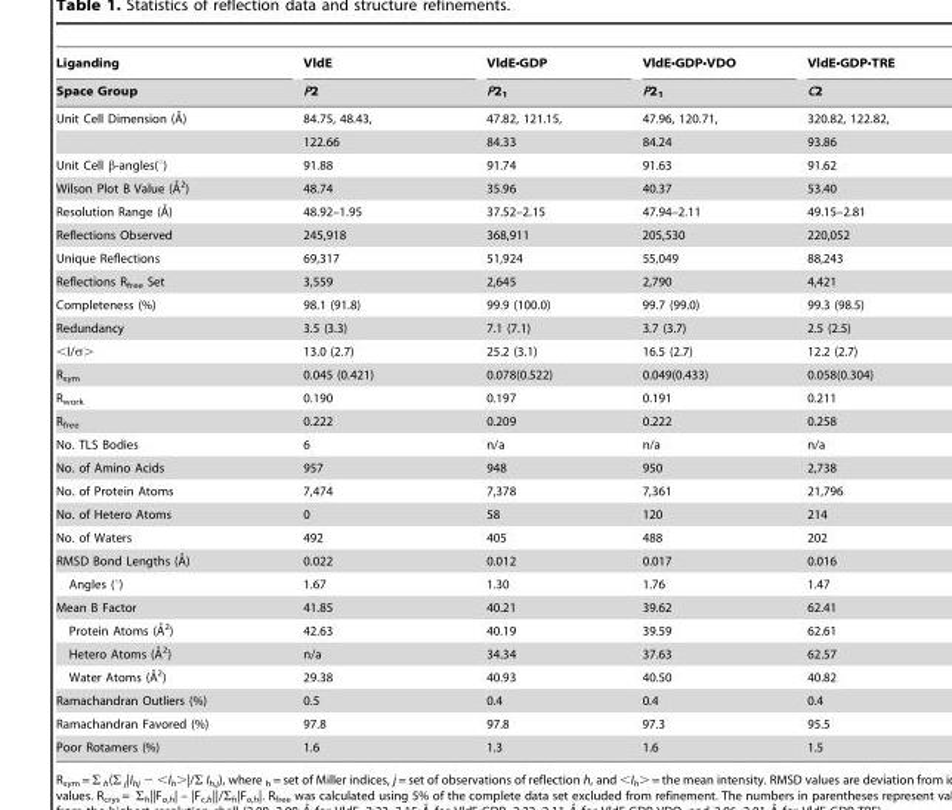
<table><thead><tr><td rowspan="2">Liganding Space Group</td><td rowspan="2">VldE P2</td><td rowspan="2">VldE•GDP P2<sub>1</sub></td><td rowspan="2">VldE•GDP•VDO P2<sub>1</sub></td><td rowspan="2">VldE•GDP•TRE C2</td></tr><tr></tr></thead><tbody><tr><td rowspan="2">Unit Cell Dimension (A˚)</td><td>84.75, 48.43,</td><td>47.82, 121.15,</td><td>47.96, 120.71,</td><td>320.82, 122.82,</td></tr><tr><td>122.66</td><td>84.33</td><td>84.24</td><td>93.86</td></tr><tr><td>Unit Cell β-angles(°)</td><td>91.88</td><td>91.74</td><td>91.63</td><td>91.62</td></tr><tr><td>Wilson Plot B Value (A˚2)</td><td>48.74</td><td>35.96</td><td>40.37</td><td>53.40</td></tr><tr><td>Resolution Range (A˚)</td><td>48.92–1.95</td><td>37.52–2.15</td><td>47.94–2.11</td><td>49.15–2.81</td></tr><tr><td>Reflections Observed</td><td>245,918</td><td>368,911</td><td>205,530</td><td>220,052</td></tr><tr><td>Unique Reflections</td><td>69,317</td><td>51,924</td><td>55,049</td><td>88,243</td></tr><tr><td>Reflections R<sub>free</sub> Set</td><td>3,559</td><td>2,645</td><td>2,790</td><td>4,421</td></tr><tr><td>Completeness (%)</td><td>98.1 (91.8)</td><td>99.9 (100.0)</td><td>99.7 (99.0)</td><td>99.3 (98.5)</td></tr><tr><td>Redundancy</td><td>3.5 (3.3)</td><td>7.1 (7.1)</td><td>3.7 (3.7)</td><td>2.5 (2.5)</td></tr><tr><td>&lt;I/σ&gt;</td><td>13.0 (2.7)</td><td>25.2 (3.1)</td><td>16.5 (2.7)</td><td>12.2 (2.7)</td></tr><tr><td>R<sub>sym</sub></td><td>0.045 (0.421)</td><td>0.078(0.522)</td><td>0.049(0.433)</td><td>0.058(0.304)</td></tr><tr><td>R<sub>work</sub></td><td>0.190</td><td>0.197</td><td>0.191</td><td>0.211</td></tr><tr><td>R<sub>free</sub></td><td>0.222</td><td>0.209</td><td>0.222</td><td>0.258</td></tr><tr><td>No. TLS Bodies</td><td>6</td><td>n/a</td><td>n/a</td><td>n/a</td></tr><tr><td>No. of Amino Acids</td><td>957</td><td>948</td><td>950</td><td>2,738</td></tr><tr><td>No. of Protein Atoms</td><td>7,474</td><td>7,378</td><td>7,361</td><td>21,796</td></tr><tr><td>No. of Hetero Atoms</td><td>0</td><td>58</td><td>120</td><td>214</td></tr><tr><td>No. of Waters</td><td>492</td><td>405</td><td>488</td><td>202</td></tr><tr><td>RMSD Bond Lengths (A˚)</td><td>0.022</td><td>0.012</td><td>0.017</td><td>0.016</td></tr><tr><td>Angles (°)</td><td>1.67</td><td>1.30</td><td>1.76</td><td>1.47</td></tr><tr><td>Mean B Factor</td><td>41.85</td><td>40.21</td><td>39.62</td><td>62.41</td></tr><tr><td>Protein Atoms (A˚ 2)</td><td>42.63</td><td>40.19</td><td>39.59</td><td>62.61</td></tr><tr><td>Hetero Atoms (A˚2)</td><td>n/a</td><td>34.34</td><td>37.63</td><td>62.57</td></tr><tr><td>Water Atoms (A˚2)</td><td>29.38</td><td>40.93</td><td>40.50</td><td>40.82</td></tr><tr><td>Ramachandran Outliers (%)</td><td>0.5</td><td>0.4</td><td>0.4</td><td>0.4</td></tr><tr><td>Ramachandran Favored (%)</td><td>97.8</td><td>97.8</td><td>97.3</td><td>95.5</td></tr><tr><td>Poor Rotamers (%)</td><td>1.6</td><td>1.3</td><td>1.6</td><td>1.5</td></tr></tbody></table>